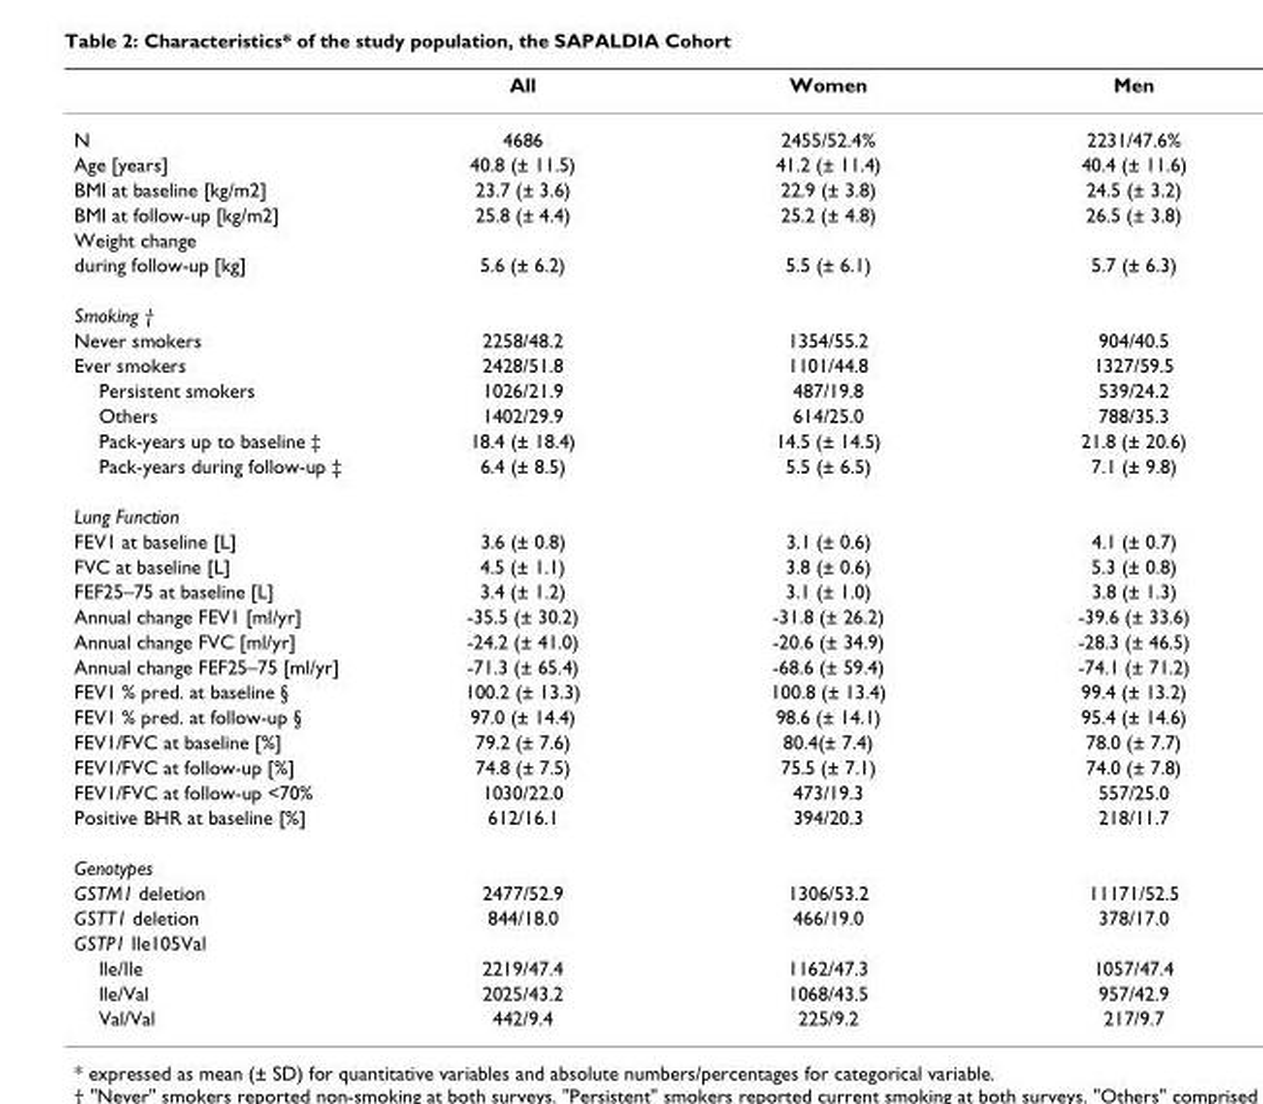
<table><thead><tr><td></td><td>All</td><td>Women</td><td>Men</td></tr></thead><tbody><tr><td>N</td><td>4686</td><td>2455/52.4%</td><td>2231/47.6%</td></tr><tr><td>Age [years]</td><td>40.8 (± 11.5)</td><td>41.2 (± 11.4)</td><td>40.4 (± 11.6)</td></tr><tr><td>BMI at baseline [kg/m2]</td><td>23.7 (± 3.6)</td><td>22.9 (± 3.8)</td><td>24.5 (± 3.2)</td></tr><tr><td>BMI at follow-up [kg/m2]</td><td>25.8 (± 4.4)</td><td>25.2 (± 4.8)</td><td>26.5 (± 3.8)</td></tr><tr><td colspan="4">Weight change</td></tr><tr><td>during follow-up [kg]</td><td>5.6 (± 6.2)</td><td>5.5 (± 6.1)</td><td>5.7 (± 6.3)</td></tr><tr><td colspan="4">Smoking †</td></tr><tr><td>Never smokers</td><td>2258/48.2</td><td>1354/55.2</td><td>904/40.5</td></tr><tr><td>Ever smokers</td><td>2428/51.8</td><td>1101/44.8</td><td>1327/59.5</td></tr><tr><td>Persistent smokers</td><td>1026/21.9</td><td>487/19.8</td><td>539/24.2</td></tr><tr><td>Others</td><td>1402/29.9</td><td>614/25.0</td><td>788/35.3</td></tr><tr><td>Pack-years up to baseline ‡</td><td>18.4 (± 18.4)</td><td>14.5 (± 14.5)</td><td>21.8 (± 20.6)</td></tr><tr><td>Pack-years during follow-up ‡</td><td>6.4 (± 8.5)</td><td>5.5 (± 6.5)</td><td>7.1 (± 9.8)</td></tr><tr><td colspan="4">Lung Function</td></tr><tr><td>FEV1 at baseline [L]</td><td>3.6 (± 0.8)</td><td>3.1 (± 0.6)</td><td>4.1 (± 0.7)</td></tr><tr><td>FVC at baseline [L]</td><td>4.5 (± 1.1)</td><td>3.8 (± 0.6)</td><td>5.3 (± 0.8)</td></tr><tr><td>FEF25–75 at baseline [L]</td><td>3.4 (± 1.2)</td><td>3.1 (± 1.0)</td><td>3.8 (± 1.3)</td></tr><tr><td>Annual change FEV1 [ml/yr]</td><td>-35.5 (± 30.2)</td><td>-31.8 (± 26.2)</td><td>-39.6 (± 33.6)</td></tr><tr><td>Annual change FVC [ml/yr]</td><td>-24.2 (± 41.0)</td><td>-20.6 (± 34.9)</td><td>-28.3 (± 46.5)</td></tr><tr><td>Annual change FEF25–75 [ml/yr]</td><td>-71.3 (± 65.4)</td><td>-68.6 (± 59.4)</td><td>-74.1 (± 71.2)</td></tr><tr><td>FEV1 % pred. at baseline §</td><td>100.2 (± 13.3)</td><td>100.8 (± 13.4)</td><td>99.4 (± 13.2)</td></tr><tr><td>FEV1 % pred. at follow-up §</td><td>97.0 (± 14.4)</td><td>98.6 (± 14.1)</td><td>95.4 (± 14.6)</td></tr><tr><td>FEV1/FVC at baseline [%]</td><td>79.2 (± 7.6)</td><td>80.4(± 7.4)</td><td>78.0 (± 7.7)</td></tr><tr><td>FEV1/FVC at follow-up [%]</td><td>74.8 (± 7.5)</td><td>75.5 (± 7.1)</td><td>74.0 (± 7.8)</td></tr><tr><td>FEV1/FVC at follow-up &lt;70%</td><td>1030/22.0</td><td>473/19.3</td><td>557/25.0</td></tr><tr><td>Positive BHR at baseline [%]</td><td>612/16.1</td><td>394/20.3</td><td>218/11.7</td></tr><tr><td colspan="4">Genotypes</td></tr><tr><td>GSTM1 deletion</td><td>2477/52.9</td><td>1306/53.2</td><td>11171/52.5</td></tr><tr><td>GSTT1 deletion</td><td>844/18.0</td><td>466/19.0</td><td>378/17.0</td></tr><tr><td colspan="4">GSTP1 Ile105Val</td></tr><tr><td>Ile/Ile</td><td>2219/47.4</td><td>1162/47.3</td><td>1057/47.4</td></tr><tr><td>Ile/Val</td><td>2025/43.2</td><td>1068/43.5</td><td>957/42.9</td></tr><tr><td>Val/Val</td><td>442/9.4</td><td>225/9.2</td><td>217/9.7</td></tr></tbody></table>